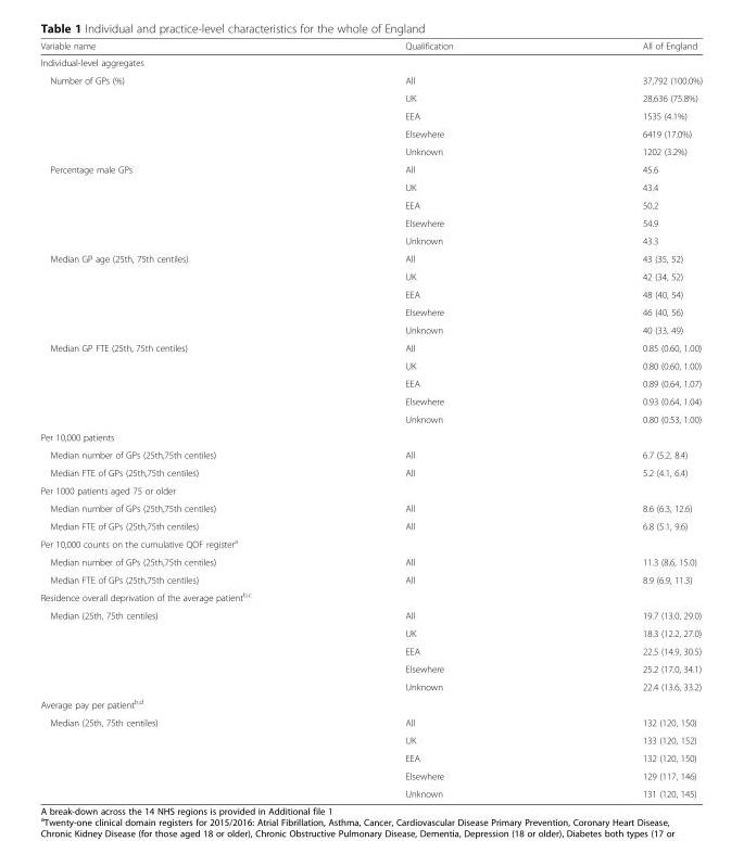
<table><thead><tr><td>Variable name</td><td>Qualification</td><td>All of England</td></tr></thead><tbody><tr><td colspan="3">Individual-level aggregates</td></tr><tr><td rowspan="5">Number of GPs (%)</td><td>All</td><td>37,792 (100.0%)</td></tr><tr><td>UK</td><td>28,636 (75.8%)</td></tr><tr><td>EEA</td><td>1535 (4.1%)</td></tr><tr><td>Elsewhere</td><td>6419 (17.0%)</td></tr><tr><td>Unknown</td><td>1202 (3.2%)</td></tr><tr><td rowspan="5">Percentage male GPs</td><td>All</td><td>45.6</td></tr><tr><td>UK</td><td>43.4</td></tr><tr><td>EEA</td><td>50.2</td></tr><tr><td>Elsewhere</td><td>54.9</td></tr><tr><td>Unknown</td><td>43.3</td></tr><tr><td rowspan="5">Median GP age (25th, 75th centiles)</td><td>All</td><td>43 (35, 52)</td></tr><tr><td>UK</td><td>42 (34, 52)</td></tr><tr><td>EEA</td><td>48 (40, 54)</td></tr><tr><td>Elsewhere</td><td>46 (40, 56)</td></tr><tr><td>Unknown</td><td>40 (33, 49)</td></tr><tr><td rowspan="5">Median GP FTE (25th, 75th centiles)</td><td>All</td><td>0.85 (0.60, 1.00)</td></tr><tr><td>UK</td><td>0.80 (0.60, 1.00)</td></tr><tr><td>EEA</td><td>0.89 (0.64, 1.07)</td></tr><tr><td>Elsewhere</td><td>0.93 (0.64, 1.04)</td></tr><tr><td>Unknown</td><td>0.80 (0.53, 1.00)</td></tr><tr><td colspan="3">Per 10,000 patients</td></tr><tr><td>Median number of GPs (25th,75th centiles)</td><td>All</td><td>6.7 (5.2, 8.4)</td></tr><tr><td>Median FTE of GPs (25th,75th centiles)</td><td>All</td><td>5.2 (4.1, 6.4)</td></tr><tr><td colspan="3">Per 1000 patients aged 75 or older</td></tr><tr><td>Median number of GPs (25th,75th centiles)</td><td>All</td><td>8.6 (6.3, 12.6)</td></tr><tr><td>Median FTE of GPs (25th,75th centiles)</td><td>All</td><td>6.8 (5.1, 9.6)</td></tr><tr><td colspan="3">Per 10,000 counts on the cumulative QOF register<sup>a</sup></td></tr><tr><td>Median number of GPs (25th,75th centiles)</td><td>All</td><td>11.3 (8.6, 15.0)</td></tr><tr><td>Median FTE of GPs (25th,75th centiles)</td><td>All</td><td>8.9 (6.9, 11.3)</td></tr><tr><td colspan="3">Residence overall deprivation of the average patient<sup>b,c</sup></td></tr><tr><td rowspan="5">Median (25th, 75th centiles)</td><td>All</td><td>19.7 (13.0, 29.0)</td></tr><tr><td>UK</td><td>18.3 (12.2, 27.0)</td></tr><tr><td>EEA</td><td>22.5 (14.9, 30.5)</td></tr><tr><td>Elsewhere</td><td>25.2 (17.0, 34.1)</td></tr><tr><td>Unknown</td><td>22.4 (13.6, 33.2)</td></tr><tr><td colspan="3">Average pay per patient<sup>b,d</sup></td></tr><tr><td rowspan="5">Median (25th, 75th centiles)</td><td>All</td><td>132 (120, 150)</td></tr><tr><td>UK</td><td>133 (120, 152)</td></tr><tr><td>EEA</td><td>132 (120, 150)</td></tr><tr><td>Elsewhere</td><td>129 (117, 146)</td></tr><tr><td>Unknown</td><td>131 (120, 145)</td></tr></tbody></table>